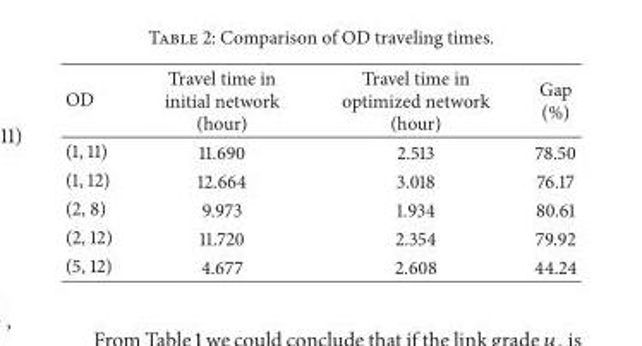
<table><thead><tr><td>OD</td><td>Travel time in initial network (hour)</td><td>Travel time in optimized network (hour)</td><td>Gap (%)</td></tr></thead><tbody><tr><td>(1, 11)</td><td>11.690</td><td>2.513</td><td>78.50</td></tr><tr><td>(1, 12)</td><td>12.664</td><td>3.018</td><td>76.17</td></tr><tr><td>(2, 8)</td><td>9.973</td><td>1.934</td><td>80.61</td></tr><tr><td>(2, 12)</td><td>11.720</td><td>2.354</td><td>79.92</td></tr><tr><td>(5, 12)</td><td>4.677</td><td>2.608</td><td>44.24</td></tr></tbody></table>